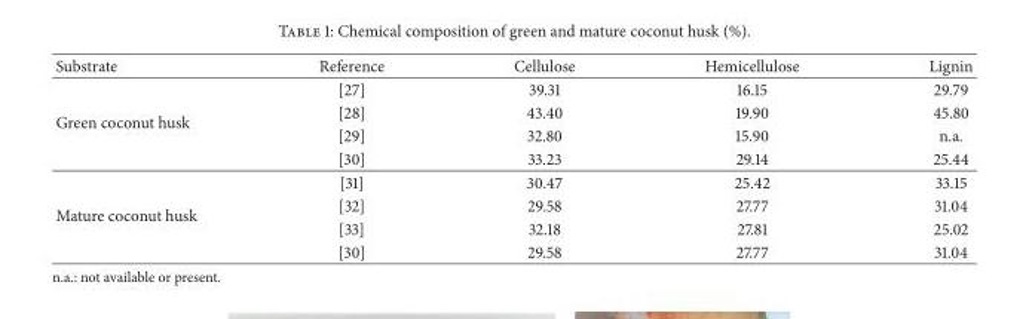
<table><thead><tr><td>Substrate</td><td>Reference</td><td>Cellulose</td><td>Hemicellulose</td><td>Lignin</td></tr></thead><tbody><tr><td rowspan="4">Green coconut husk</td><td>[27]</td><td>39.31</td><td>16.15</td><td>29.79</td></tr><tr><td>[28]</td><td>43.40</td><td>19.90</td><td>45.80</td></tr><tr><td>[29]</td><td>32.80</td><td>15.90</td><td>n.a.</td></tr><tr><td>[30]</td><td>33.23</td><td>29.14</td><td>25.44</td></tr><tr><td rowspan="4">Mature coconut husk</td><td>[31]</td><td>30.47</td><td>25.42</td><td>33.15</td></tr><tr><td>[32]</td><td>29.58</td><td>27.77</td><td>31.04</td></tr><tr><td>[33]</td><td>32.18</td><td>27.81</td><td>25.02</td></tr><tr><td>[30]</td><td>29.58</td><td>27.77</td><td>31.04</td></tr></tbody></table>